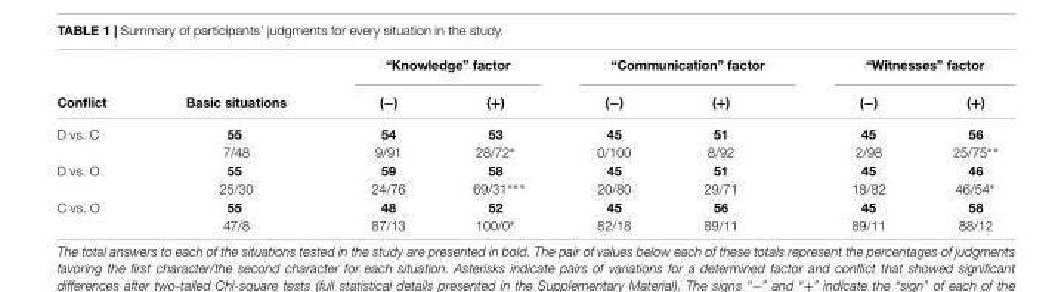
<table><thead><tr><td rowspan="2">Conflict</td><td rowspan="2">Basic situations</td><td colspan="2">“Knowledge” factor</td><td colspan="2">“Communication” factor</td><td colspan="2">“Witnesses” factor</td></tr><tr><td>(−)</td><td>(+)</td><td>(−)</td><td>(+)</td><td>(−)</td><td>(+)</td></tr></thead><tbody><tr><td>D vs. C</td><td>55 7/48</td><td>54 9/91</td><td>53 28/72∗</td><td>45 0/100</td><td>51 8/92</td><td>45 2/98</td><td>56 25/75∗∗</td></tr><tr><td>D vs. O</td><td>55 25/30</td><td>59 24/76</td><td>58 69/31∗∗∗</td><td>45 20/80</td><td>51 29/71</td><td>45 18/82</td><td>46 46/54∗</td></tr><tr><td>C vs. O</td><td>55 47/8</td><td>48 87/13</td><td>52 100/0∗</td><td>45 82/18</td><td>56 89/11</td><td>45 89/11</td><td>58 88/12</td></tr></tbody></table>